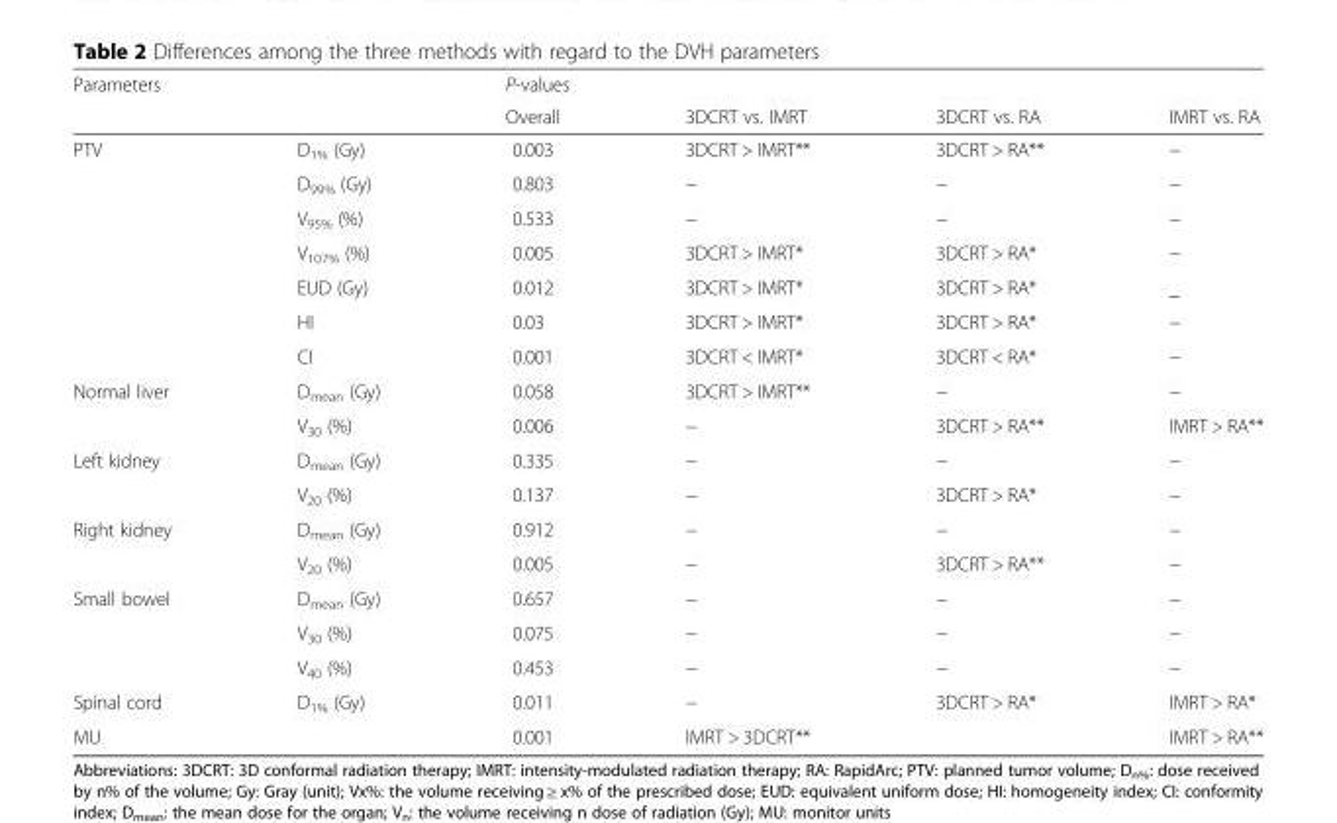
<table><thead><tr><td rowspan="2" colspan="2">Parameters</td><td colspan="4">P-values</td></tr><tr><td rowspan="2">Overall 0.003</td><td rowspan="2">3DCRT vs. IMRT 3DCRT &gt; IMRT**</td><td rowspan="2">3DCRT vs. RA 3DCRT &gt; RA**</td><td rowspan="2">IMRT vs. RA −</td></tr><tr><td>PTV</td><td>D<sub>1%</sub> (Gy)</td></tr></thead><tbody><tr><td></td><td>D<sub>99%</sub> (Gy)</td><td>0.803</td><td>−</td><td>−</td><td>−</td></tr><tr><td></td><td>V<sub>95%</sub> (%)</td><td>0.533</td><td>−</td><td>−</td><td>−</td></tr><tr><td></td><td>V<sub>107%</sub> (%)</td><td>0.005</td><td>3DCRT &gt; IMRT*</td><td>3DCRT &gt; RA*</td><td>−</td></tr><tr><td></td><td>EUD (Gy)</td><td>0.012</td><td>3DCRT &gt; IMRT*</td><td>3DCRT &gt; RA*</td><td>_</td></tr><tr><td></td><td>HI</td><td>0.03</td><td>3DCRT &gt; IMRT*</td><td>3DCRT &gt; RA*</td><td>−</td></tr><tr><td></td><td>CI</td><td>0.001</td><td>3DCRT &lt; IMRT*</td><td>3DCRT &lt; RA*</td><td>−</td></tr><tr><td rowspan="2">Normal liver</td><td>D<sub>mean</sub> (Gy)</td><td>0.058</td><td>3DCRT &gt; IMRT**</td><td>−</td><td>−</td></tr><tr><td>V<sub>30</sub> (%)</td><td>0.006</td><td>−</td><td>3DCRT &gt; RA**</td><td>IMRT &gt; RA**</td></tr><tr><td rowspan="2">Left kidney</td><td>D<sub>mean</sub> (Gy)</td><td>0.335</td><td>−</td><td>−</td><td>−</td></tr><tr><td>V<sub>20</sub> (%)</td><td>0.137</td><td>−</td><td>3DCRT &gt; RA*</td><td>−</td></tr><tr><td rowspan="2">Right kidney</td><td>D<sub>mean</sub> (Gy)</td><td>0.912</td><td>−</td><td>−</td><td>−</td></tr><tr><td>V<sub>20</sub> (%)</td><td>0.005</td><td>−</td><td>3DCRT &gt; RA**</td><td>−</td></tr><tr><td rowspan="3">Small bowel</td><td>D<sub>mean</sub> (Gy)</td><td>0.657</td><td>−</td><td>−</td><td>−</td></tr><tr><td>V<sub>30</sub> (%)</td><td>0.075</td><td>−</td><td>−</td><td>−</td></tr><tr><td>V<sub>40</sub> (%)</td><td>0.453</td><td>−</td><td>−</td><td>−</td></tr><tr><td>Spinal cord</td><td>D<sub>1%</sub> (Gy)</td><td>0.011</td><td>−</td><td>3DCRT &gt; RA*</td><td>IMRT &gt; RA*</td></tr><tr><td>MU</td><td></td><td>0.001</td><td>IMRT &gt; 3DCRT**</td><td></td><td>IMRT &gt; RA**</td></tr></tbody></table>